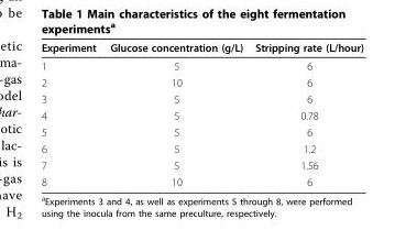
<table><thead><tr><td>Experiment</td><td>Glucose concentration (g/L)</td><td>Stripping rate (L/hour)</td></tr></thead><tbody><tr><td>1</td><td>5</td><td>6</td></tr><tr><td>2</td><td>10</td><td>6</td></tr><tr><td>3</td><td>5</td><td>6</td></tr><tr><td>4</td><td>5</td><td>0.78</td></tr><tr><td>5</td><td>5</td><td>6</td></tr><tr><td>6</td><td>5</td><td>1.2</td></tr><tr><td>7</td><td>5</td><td>1.56</td></tr><tr><td>8</td><td>10</td><td>6</td></tr></tbody></table>